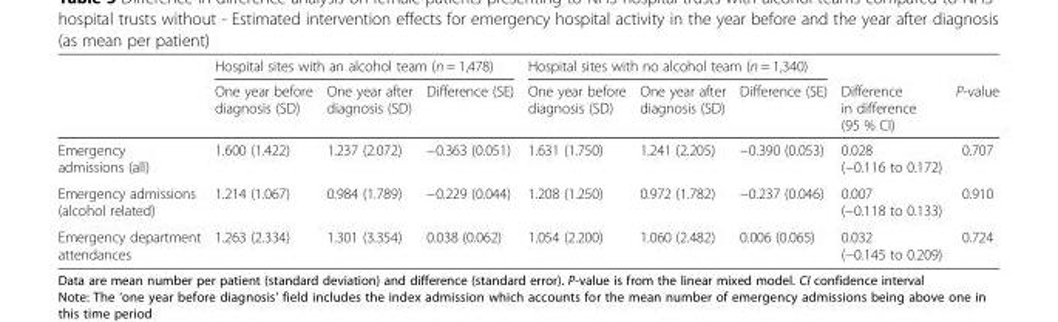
<table><thead><tr><td rowspan="2"></td><td colspan="3">Hospital sites with an alcohol team (n = 1,478)</td><td colspan="3">Hospital sites with no alcohol team (n = 1,340)</td><td rowspan="2">Difference in difference (95 % CI)</td><td rowspan="2">P-value</td></tr><tr><td>One year before diagnosis (SD)</td><td>One year after diagnosis (SD)</td><td>Difference (SE)</td><td>One year before diagnosis (SD)</td><td>One year after diagnosis (SD)</td><td>Difference (SE)</td></tr></thead><tbody><tr><td>Emergency admissions (all)</td><td>1.600 (1.422)</td><td>1.237 (2.072)</td><td>−0.363 (0.051)</td><td>1.631 (1.750)</td><td>1.241 (2.205)</td><td>−0.390 (0.053)</td><td>0.028 (−0.116 to 0.172)</td><td>0.707</td></tr><tr><td>Emergency admissions (alcohol related)</td><td>1.214 (1.067)</td><td>0.984 (1.789)</td><td>−0.229 (0.044)</td><td>1.208 (1.250)</td><td>0.972 (1.782)</td><td>−0.237 (0.046)</td><td>0.007 (−0.118 to 0.133)</td><td>0.910</td></tr><tr><td>Emergency department attendances</td><td>1.263 (2.334)</td><td>1.301 (3.354)</td><td>0.038 (0.062)</td><td>1.054 (2.200)</td><td>1.060 (2.482)</td><td>0.006 (0.065)</td><td>0.032 (−0.145 to 0.209)</td><td>0.724</td></tr></tbody></table>